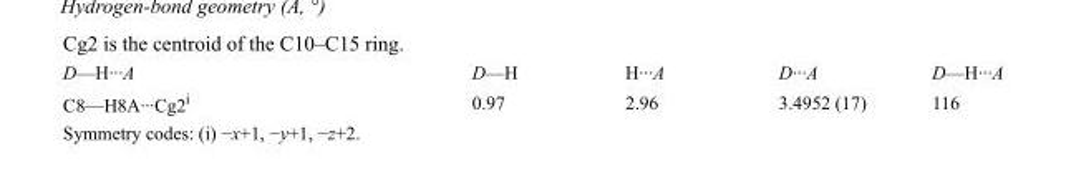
<table><tbody><tr><td>D—H···A</td><td>D—H</td><td>H···A</td><td>D···A</td><td>D—H···A</td></tr><tr><td>C8—H8A···Cg2<sup>i</sup></td><td>0.97</td><td>2.96</td><td>3.4952 (17)</td><td>116</td></tr></tbody></table>